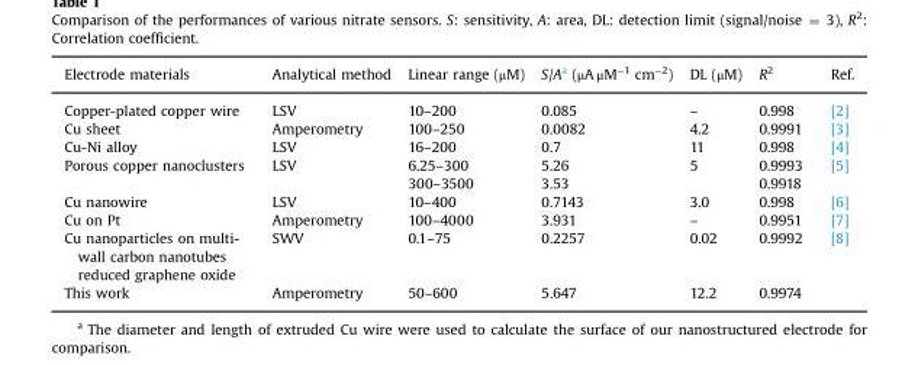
<table><thead><tr><td>Electrode materials</td><td>Analytical method</td><td>Linear range (μM)</td><td>S/A<sup>a</sup> (μA μM<sup>−1</sup> cm<sup>−2</sup>)</td><td>DL (μM)</td><td>R<sup>2</sup></td><td>Ref.</td></tr></thead><tbody><tr><td>Copper-plated copper wire</td><td>LSV</td><td>10–200</td><td>0.085</td><td>–</td><td>0.998</td><td>[2]</td></tr><tr><td>Cu sheet</td><td>Amperometry</td><td>100–250</td><td>0.0082</td><td>4.2</td><td>0.9991</td><td>[3]</td></tr><tr><td>Cu-Ni alloy</td><td>LSV</td><td>16–200</td><td>0.7</td><td>11</td><td>0.998</td><td>[4]</td></tr><tr><td rowspan="2">Porous copper nanoclusters</td><td rowspan="2">LSV</td><td>6.25–300</td><td>5.26</td><td>5</td><td>0.9993</td><td rowspan="2">[5]</td></tr><tr><td>300–3500</td><td>3.53</td><td></td><td>0.9918</td></tr><tr><td>Cu nanowire</td><td>LSV</td><td>10–400</td><td>0.7143</td><td>3.0</td><td>0.998</td><td>[6]</td></tr><tr><td>Cu on Pt</td><td>Amperometry</td><td>100–4000</td><td>3.931</td><td>–</td><td>0.9951</td><td>[7]</td></tr><tr><td>Cu nanoparticles on multi- wall carbon nanotubes reduced graphene oxide</td><td>SWV</td><td>0.1–75</td><td>0.2257</td><td>0.02</td><td>0.9992</td><td>[8]</td></tr><tr><td>This work</td><td>Amperometry</td><td>50–600</td><td>5.647</td><td>12.2</td><td>0.9974</td><td></td></tr></tbody></table>